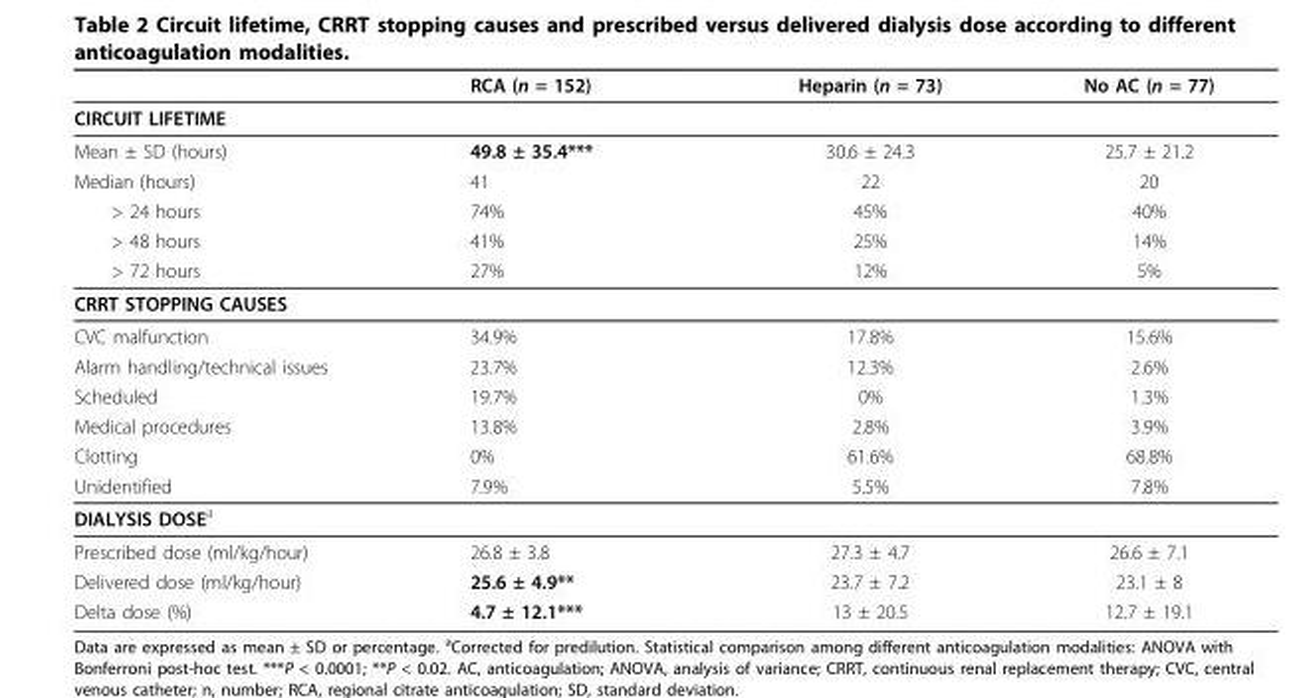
<table><thead><tr><td></td><td>RCA (n = 152)</td><td>Heparin (n = 73)</td><td>No AC (n = 77)</td></tr></thead><tbody><tr><td colspan="4">CIRCUIT LIFETIME</td></tr><tr><td>Mean ± SD (hours)</td><td>49.8 ± 35.4***</td><td>30.6 ± 24.3</td><td>25.7 ± 21.2</td></tr><tr><td>Median (hours)</td><td>41</td><td>22</td><td>20</td></tr><tr><td>&gt; 24 hours</td><td>74%</td><td>45%</td><td>40%</td></tr><tr><td>&gt; 48 hours</td><td>41%</td><td>25%</td><td>14%</td></tr><tr><td>&gt; 72 hours</td><td>27%</td><td>12%</td><td>5%</td></tr><tr><td colspan="4">CRRT STOPPING CAUSES</td></tr><tr><td>CVC malfunction</td><td>34.9%</td><td>17.8%</td><td>15.6%</td></tr><tr><td>Alarm handling/technical issues</td><td>23.7%</td><td>12.3%</td><td>2.6%</td></tr><tr><td>Scheduled</td><td>19.7%</td><td>0%</td><td>1.3%</td></tr><tr><td>Medical procedures</td><td>13.8%</td><td>2.8%</td><td>3.9%</td></tr><tr><td>Clotting</td><td>0%</td><td>61.6%</td><td>68.8%</td></tr><tr><td>Unidentified</td><td>7.9%</td><td>5.5%</td><td>7.8%</td></tr><tr><td colspan="4">DIALYSIS DOSE<sup>a</sup></td></tr><tr><td>Prescribed dose (ml/kg/hour)</td><td>26.8 ± 3.8</td><td>27.3 ± 4.7</td><td>26.6 ± 7.1</td></tr><tr><td>Delivered dose (ml/kg/hour)</td><td>25.6 ± 4.9**</td><td>23.7 ± 7.2</td><td>23.1 ± 8</td></tr><tr><td>Delta dose (%)</td><td>4.7 ± 12.1***</td><td>13 ± 20.5</td><td>12.7 ± 19.1</td></tr></tbody></table>